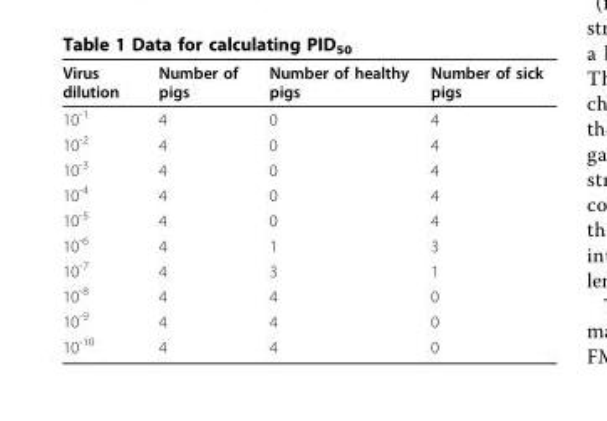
<table><thead><tr><td>Virus dilution</td><td>Number of pigs</td><td>Number of healthy pigs</td><td>Number of sick pigs</td></tr></thead><tbody><tr><td>10<sup>-1</sup></td><td>4</td><td>0</td><td>4</td></tr><tr><td>10<sup>-2</sup></td><td>4</td><td>0</td><td>4</td></tr><tr><td>10<sup>-3</sup></td><td>4</td><td>0</td><td>4</td></tr><tr><td>10<sup>-4</sup></td><td>4</td><td>0</td><td>4</td></tr><tr><td>10<sup>-5</sup></td><td>4</td><td>0</td><td>4</td></tr><tr><td>10<sup>-6</sup></td><td>4</td><td>1</td><td>3</td></tr><tr><td>10<sup>-7</sup></td><td>4</td><td>3</td><td>1</td></tr><tr><td>10<sup>-8</sup></td><td>4</td><td>4</td><td>0</td></tr><tr><td>10<sup>-9</sup></td><td>4</td><td>4</td><td>0</td></tr><tr><td>10<sup>-10</sup></td><td>4</td><td>4</td><td>0</td></tr></tbody></table>